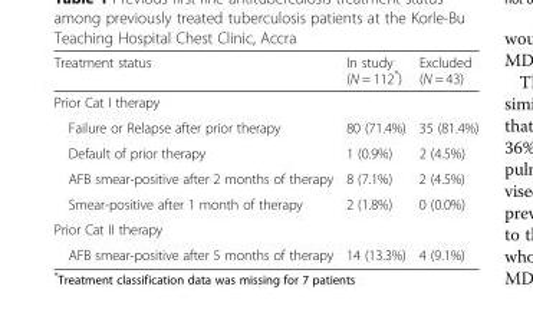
<table><thead><tr><td>Treatment status</td><td>In study (N = 112*)</td><td>Excluded (N = 43)</td></tr></thead><tbody><tr><td colspan="3">Prior Cat I therapy</td></tr><tr><td>Failure or Relapse after prior therapy</td><td>80 (71.4%)</td><td>35 (81.4%)</td></tr><tr><td>Default of prior therapy</td><td>1 (0.9%)</td><td>2 (4.5%)</td></tr><tr><td>AFB smear-positive after 2 months of therapy</td><td>8 (7.1%)</td><td>2 (4.5%)</td></tr><tr><td>Smear-positive after 1 month of therapy</td><td>2 (1.8%)</td><td>0 (0.0%)</td></tr><tr><td colspan="3">Prior Cat II therapy</td></tr><tr><td>AFB smear-positive after 5 months of therapy</td><td>14 (13.3%)</td><td>4 (9.1%)</td></tr></tbody></table>